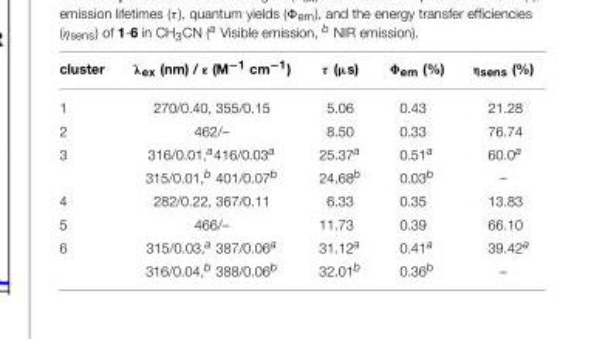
<table><thead><tr><td>cluster</td><td>λ<sub>ex</sub> (nm) / ε (M<sup>−1</sup> cm<sup>−1</sup>)</td><td>τ (µs)</td><td>Φ<sub>em</sub> (%)</td><td>η<sub>sens</sub> (%)</td></tr></thead><tbody><tr><td>1</td><td>270/0.40, 355/0.15</td><td>5.06</td><td>0.43</td><td>21.28</td></tr><tr><td>2</td><td>462/–</td><td>8.50</td><td>0.33</td><td>76.74</td></tr><tr><td rowspan="2">3</td><td>316/0.01,a416/0.03a</td><td>25.37<sup>a</sup></td><td>0.51<sup>a</sup></td><td>60.0<sup>a</sup></td></tr><tr><td>315/0.01,b 401/0.07b</td><td>24.68<sup>b</sup></td><td>0.03<sup>b</sup></td><td>–</td></tr><tr><td>4</td><td>282/0.22, 367/0.11</td><td>6.33</td><td>0.35</td><td>13.83</td></tr><tr><td>5</td><td>466/–</td><td>11.73</td><td>0.39</td><td>66.10</td></tr><tr><td rowspan="2">6</td><td>315/0.03,a 387/0.06a</td><td>31.12<sup>a</sup></td><td>0.41<sup>a</sup></td><td>39.42<sup>a</sup></td></tr><tr><td>316/0.04,b 388/0.06b</td><td>32.01<sup>b</sup></td><td>0.36<sup>b</sup></td><td>–</td></tr></tbody></table>